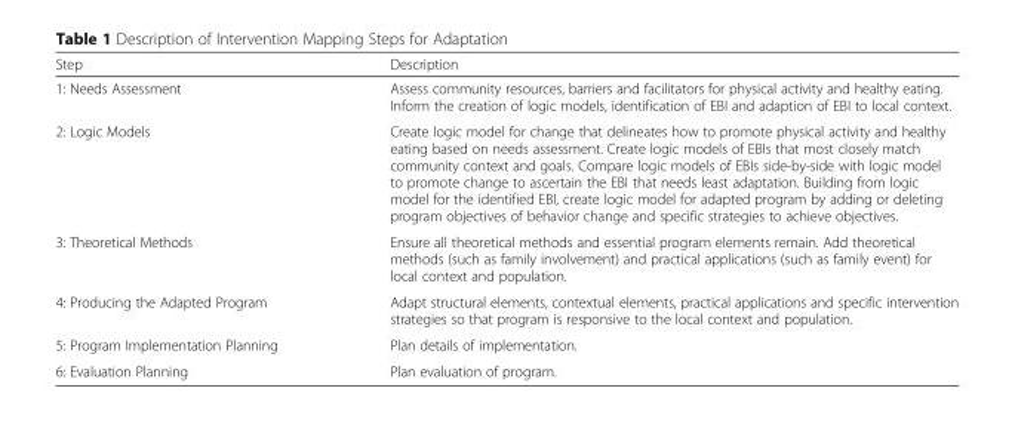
<table><thead><tr><td>Step</td><td>Description</td></tr></thead><tbody><tr><td>1: Needs Assessment</td><td>Assess community resources, barriers and facilitators for physical activity and healthy eating. Inform the creation of logic models, identification of EBI and adaption of EBI to local context.</td></tr><tr><td>2: Logic Models</td><td>Create logic model for change that delineates how to promote physical activity and healthy eating based on needs assessment. Create logic models of EBIs that most closely match community context and goals. Compare logic models of EBIs side-by-side with logic model to promote change to ascertain the EBI that needs least adaptation. Building from logic model for the identified EBI, create logic model for adapted program by adding or deleting program objectives of behavior change and specific strategies to achieve objectives.</td></tr><tr><td>3: Theoretical Methods</td><td>Ensure all theoretical methods and essential program elements remain. Add theoretical methods (such as family involvement) and practical applications (such as family event) for local context and population.</td></tr><tr><td>4: Producing the Adapted Program</td><td>Adapt structural elements, contextual elements, practical applications and specific intervention strategies so that program is responsive to the local context and population.</td></tr><tr><td>5: Program Implementation Planning</td><td>Plan details of implementation.</td></tr><tr><td>6: Evaluation Planning</td><td>Plan evaluation of program.</td></tr></tbody></table>